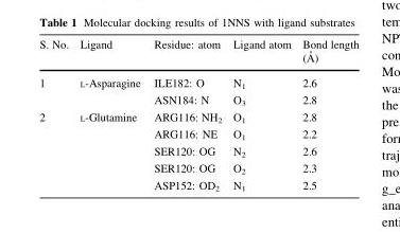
<table><thead><tr><td>S. No.</td><td>Ligand</td><td>Residue: atom</td><td>Ligand atom</td><td>Bond length (A˚ )</td></tr></thead><tbody><tr><td rowspan="2">1</td><td rowspan="2">L-Asparagine</td><td>ILE182: O</td><td>N<sub>1</sub></td><td>2.6</td></tr><tr><td>ASN184: N</td><td>O<sub>3</sub></td><td>2.8</td></tr><tr><td rowspan="5">2</td><td rowspan="5">L-Glutamine</td><td>ARG116: NH<sub>2</sub></td><td>O<sub>1</sub></td><td>2.8</td></tr><tr><td>ARG116: NE</td><td>O<sub>1</sub></td><td>2.2</td></tr><tr><td>SER120: OG</td><td>N<sub>2</sub></td><td>2.6</td></tr><tr><td>SER120: OG</td><td>O<sub>2</sub></td><td>2.3</td></tr><tr><td>ASP152: OD<sub>2</sub></td><td>N<sub>1</sub></td><td>2.5</td></tr></tbody></table>